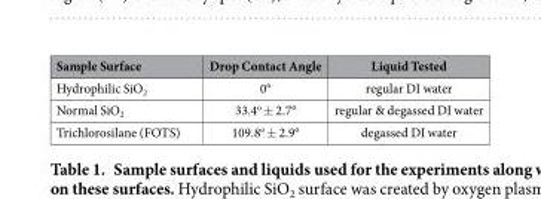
<table><thead><tr><td>Sample Surface</td><td>Drop Contact Angle</td><td>Liquid Tested</td></tr></thead><tbody><tr><td>Hydrophilic SiO<sub>2</sub></td><td>0°</td><td>regular DI water</td></tr><tr><td>Normal SiO<sub>2</sub></td><td>33.4<sup>o</sup> ± 2.7°</td><td>regular &amp; degassed DI water</td></tr><tr><td>Trichlorosilane (FOTS)</td><td>109.8<sup>o</sup> ± 2.9°</td><td>degassed DI water</td></tr></tbody></table>